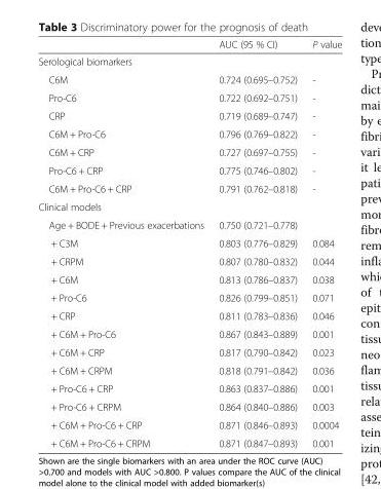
<table><thead><tr><td></td><td>AUC (95 % CI)</td><td>P value</td></tr></thead><tbody><tr><td colspan="3">Serological biomarkers</td></tr><tr><td>C6M</td><td>0.724 (0.695–0.752)</td><td>-</td></tr><tr><td>Pro-C6</td><td>0.722 (0.692–0.751)</td><td>-</td></tr><tr><td>CRP</td><td>0.719 (0.689–0.747)</td><td>-</td></tr><tr><td>C6M + Pro-C6</td><td>0.796 (0.769–0.822)</td><td>-</td></tr><tr><td>C6M + CRP</td><td>0.727 (0.697–0.755)</td><td>-</td></tr><tr><td>Pro-C6 + CRP</td><td>0.775 (0.746–0.802)</td><td>-</td></tr><tr><td>C6M + Pro-C6 + CRP</td><td>0.791 (0.762–0.818)</td><td>-</td></tr><tr><td colspan="3">Clinical models</td></tr><tr><td>Age + BODE + Previous exacerbations</td><td>0.750 (0.721–0.778)</td><td></td></tr><tr><td>+ C3M</td><td>0.803 (0.776–0.829)</td><td>0.084</td></tr><tr><td>+ CRPM</td><td>0.807 (0.780–0.832)</td><td>0.044</td></tr><tr><td>+ C6M</td><td>0.813 (0.786–0.837)</td><td>0.038</td></tr><tr><td>+ Pro-C6</td><td>0.826 (0.799–0.851)</td><td>0.071</td></tr><tr><td>+ CRP</td><td>0.811 (0.783–0.836)</td><td>0.046</td></tr><tr><td>+ C6M + Pro-C6</td><td>0.867 (0.843–0.889)</td><td>0.001</td></tr><tr><td>+ C6M + CRP</td><td>0.817 (0.790–0.842)</td><td>0.023</td></tr><tr><td>+ C6M + CRPM</td><td>0.818 (0.791–0.842)</td><td>0.036</td></tr><tr><td>+ Pro-C6 + CRP</td><td>0.863 (0.837–0.886)</td><td>0.001</td></tr><tr><td>+ Pro-C6 + CRPM</td><td>0.864 (0.840–0.886)</td><td>0.003</td></tr><tr><td>+ C6M + Pro-C6 + CRP</td><td>0.871 (0.846–0.893)</td><td>0.0004</td></tr><tr><td>+ C6M + Pro-C6 + CRPM</td><td>0.871 (0.847–0.893)</td><td>0.001</td></tr></tbody></table>